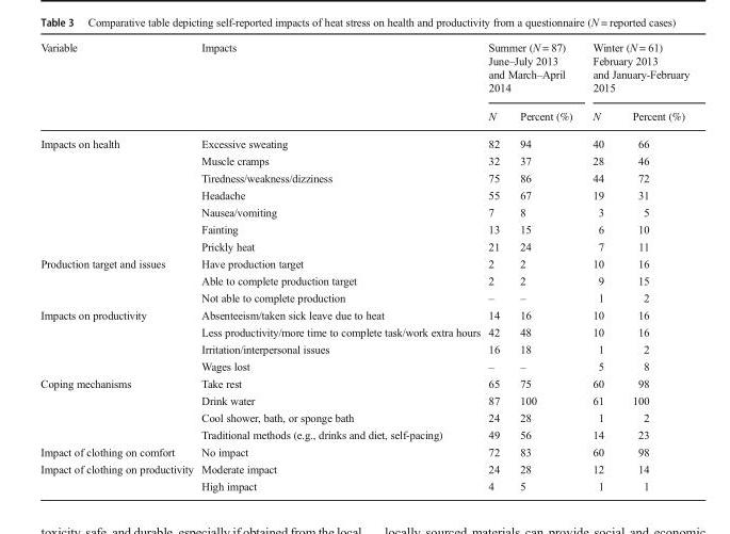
<table><thead><tr><td rowspan="2">Variable</td><td rowspan="2">Impacts</td><td colspan="2">Summer (N = 87) June–July 2013 and March–April 2014</td><td colspan="2">Winter (N = 61) February 2013 and January-February 2015</td></tr><tr><td>N</td><td>Percent (%)</td><td>N</td><td>Percent (%)</td></tr></thead><tbody><tr><td rowspan="7">Impacts on health</td><td>Excessive sweating</td><td>82</td><td>94</td><td>40</td><td>66</td></tr><tr><td>Muscle cramps</td><td>32</td><td>37</td><td>28</td><td>46</td></tr><tr><td>Tiredness/weakness/dizziness</td><td>75</td><td>86</td><td>44</td><td>72</td></tr><tr><td>Headache</td><td>55</td><td>67</td><td>19</td><td>31</td></tr><tr><td>Nausea/vomiting</td><td>7</td><td>8</td><td>3</td><td>5</td></tr><tr><td>Fainting</td><td>13</td><td>15</td><td>6</td><td>10</td></tr><tr><td>Prickly heat</td><td>21</td><td>24</td><td>7</td><td>11</td></tr><tr><td rowspan="3">Production target and issues</td><td>Have production target</td><td>2</td><td>2</td><td>10</td><td>16</td></tr><tr><td>Able to complete production target</td><td>2</td><td>2</td><td>9</td><td>15</td></tr><tr><td>Not able to complete production</td><td>–</td><td>–</td><td>1</td><td>2</td></tr><tr><td rowspan="4">Impacts on productivity</td><td>Absenteeism/taken sick leave due to heat</td><td>14</td><td>16</td><td>10</td><td>16</td></tr><tr><td>Less productivity/more time to complete task/work extra hours</td><td>42</td><td>48</td><td>10</td><td>16</td></tr><tr><td>Irritation/interpersonal issues</td><td>16</td><td>18</td><td>1</td><td>2</td></tr><tr><td>Wages lost</td><td>–</td><td>–</td><td>5</td><td>8</td></tr><tr><td rowspan="4">Coping mechanisms</td><td>Take rest</td><td>65</td><td>75</td><td>60</td><td>98</td></tr><tr><td>Drink water</td><td>87</td><td>100</td><td>61</td><td>100</td></tr><tr><td>Cool shower, bath, or sponge bath</td><td>24</td><td>28</td><td>1</td><td>2</td></tr><tr><td>Traditional methods (e.g., drinks and diet, self-pacing)</td><td>49</td><td>56</td><td>14</td><td>23</td></tr><tr><td>Impact of clothing on comfort</td><td>No impact</td><td>72</td><td>83</td><td>60</td><td>98</td></tr><tr><td rowspan="2">Impact of clothing on productivity</td><td>Moderate impact</td><td>24</td><td>28</td><td>12</td><td>14</td></tr><tr><td>High impact</td><td>4</td><td>5</td><td>1</td><td>1</td></tr></tbody></table>